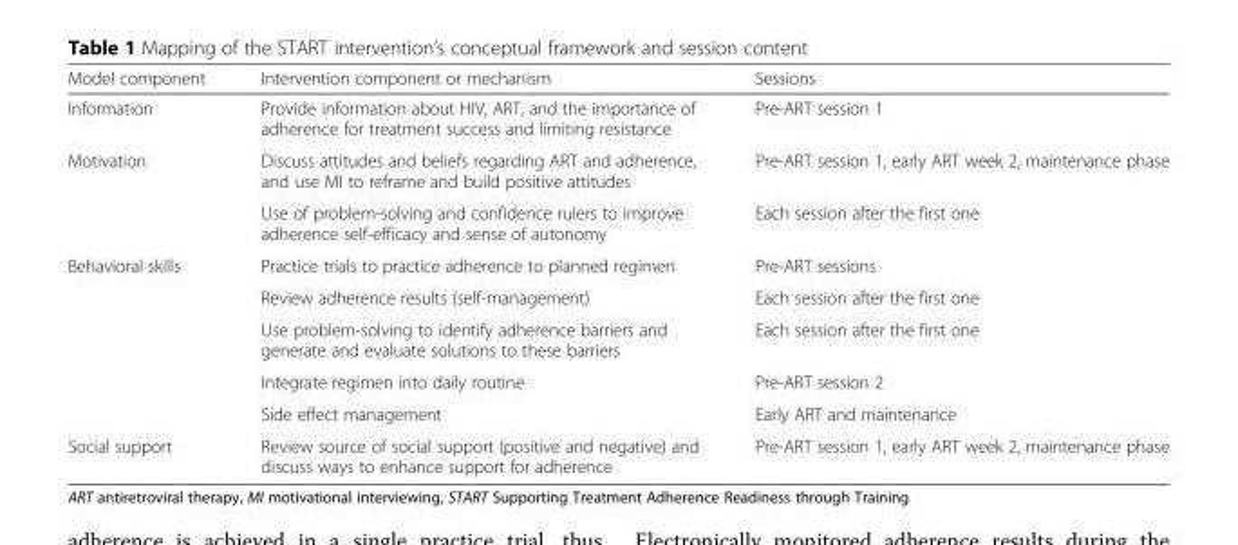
<table><thead><tr><td>Model component</td><td>Intervention component or mechanism</td><td>Sessions</td></tr></thead><tbody><tr><td>Information</td><td>Provide information about HIV, ART, and the importance of adherence for treatment success and limiting resistance</td><td>Pre-ART session 1</td></tr><tr><td rowspan="2">Motivation</td><td>Discuss attitudes and beliefs regarding ART and adherence, and use MI to reframe and build positive attitudes</td><td>Pre-ART session 1, early ART week 2, maintenance phase</td></tr><tr><td>Use of problem-solving and confidence rulers to improve adherence self-efficacy and sense of autonomy</td><td>Each session after the first one</td></tr><tr><td rowspan="5">Behavioral skills</td><td>Practice trials to practice adherence to planned regimen</td><td>Pre-ART sessions</td></tr><tr><td>Review adherence results (self-management)</td><td>Each session after the first one</td></tr><tr><td>Use problem-solving to identify adherence barriers and generate and evaluate solutions to these barriers</td><td>Each session after the first one</td></tr><tr><td>Integrate regimen into daily routine</td><td>Pre-ART session 2</td></tr><tr><td>Side effect management</td><td>Early ART and maintenance</td></tr><tr><td>Social support</td><td>Review source of social support (positive and negative) and discuss ways to enhance support for adherence</td><td>Pre-ART session 1, early ART week 2, maintenance phase</td></tr></tbody></table>